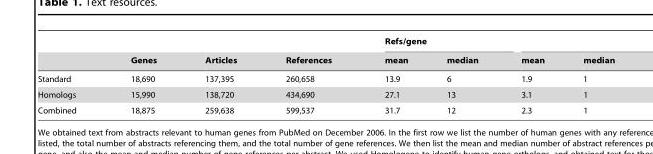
<table><thead><tr><td rowspan="2"></td><td rowspan="2">Genes</td><td rowspan="2">Articles</td><td rowspan="2">References</td><td colspan="2">Refs/gene</td><td rowspan="2">mean</td><td rowspan="2">median</td></tr><tr><td>mean</td><td>median</td></tr></thead><tbody><tr><td>Standard</td><td>18,690</td><td>137,395</td><td>260,658</td><td>13.9</td><td>6</td><td>1.9</td><td>1</td></tr><tr><td>Homologs</td><td>15,990</td><td>138,720</td><td>434,690</td><td>27.1</td><td>13</td><td>3.1</td><td>1</td></tr><tr><td>Combined</td><td>18,875</td><td>259,638</td><td>599,537</td><td>31.7</td><td>12</td><td>2.3</td><td>1</td></tr></tbody></table>